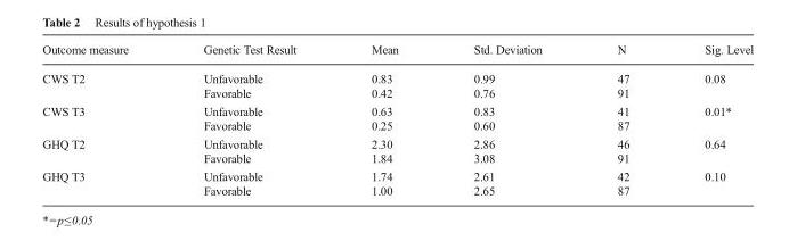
<table><thead><tr><td>Outcome measure</td><td>Genetic Test Result</td><td>Mean</td><td>Std. Deviation</td><td>N</td><td>Sig. Level</td></tr></thead><tbody><tr><td rowspan="2">CWS T2</td><td>Unfavorable</td><td>0.83</td><td>0.99</td><td>47</td><td rowspan="2">0.08</td></tr><tr><td>Favorable</td><td>0.42</td><td>0.76</td><td>91</td></tr><tr><td rowspan="2">CWS T3</td><td>Unfavorable</td><td>0.63</td><td>0.83</td><td>41</td><td rowspan="2">0.01*</td></tr><tr><td>Favorable</td><td>0.25</td><td>0.60</td><td>87</td></tr><tr><td rowspan="2">GHQ T2</td><td>Unfavorable</td><td>2.30</td><td>2.86</td><td>46</td><td rowspan="2">0.64</td></tr><tr><td>Favorable</td><td>1.84</td><td>3.08</td><td>91</td></tr><tr><td rowspan="2">GHQ T3</td><td>Unfavorable</td><td>1.74</td><td>2.61</td><td>42</td><td rowspan="2">0.10</td></tr><tr><td>Favorable</td><td>1.00</td><td>2.65</td><td>87</td></tr></tbody></table>